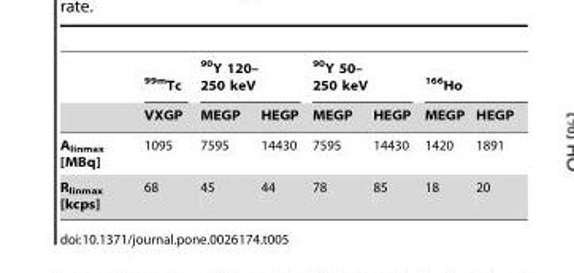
<table><thead><tr><td rowspan="2"></td><td rowspan="2"><sup>99m</sup>Tc VXGP</td><td colspan="2"><sup>90</sup>Y 120– 250 keV</td><td colspan="2"><sup>90</sup>Y 50– 250 keV</td><td colspan="2"><sup>166</sup>Ho</td></tr><tr><td>MEGP</td><td>HEGP</td><td>MEGP</td><td>HEGP</td><td>MEGP</td><td>HEGP</td></tr></thead><tbody><tr><td>A<sub>linmax</sub> [MBq]</td><td>1095</td><td>7595</td><td>14430</td><td>7595</td><td>14430</td><td>1420</td><td>1891</td></tr><tr><td>R<sub>linmax</sub> [kcps]</td><td>68</td><td>45</td><td>44</td><td>78</td><td>85</td><td>18</td><td>20</td></tr></tbody></table>